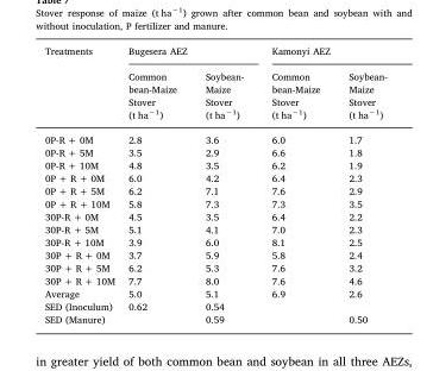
<table><thead><tr><td rowspan="3">Treatments</td><td colspan="2">Bugesera AEZ</td><td colspan="2">Kamonyi AEZ</td></tr><tr><td rowspan="2">Common bean-Maize Stover (t ha<sup>−1</sup>)</td><td rowspan="2">Soybean- Maize Stover (t ha<sup>−1</sup>)</td><td rowspan="2">Common bean-Maize Stover (t ha<sup>−1</sup>)</td><td rowspan="2">Soybean- Maize Stover (t ha<sup>−1</sup>)</td></tr><tr></tr></thead><tbody><tr><td>0P-R + 0M</td><td>2.8</td><td>3.6</td><td>6.0</td><td>1.7</td></tr><tr><td>0P-R + 5M</td><td>3.5</td><td>2.9</td><td>6.6</td><td>1.8</td></tr><tr><td>0P-R + 10M</td><td>4.8</td><td>3.5</td><td>6.2</td><td>1.9</td></tr><tr><td>0P + R + 0M</td><td>6.0</td><td>4.2</td><td>6.4</td><td>2.3</td></tr><tr><td>0P + R + 5M</td><td>6.2</td><td>7.1</td><td>7.6</td><td>2.9</td></tr><tr><td>0P + R + 10M</td><td>5.8</td><td>7.3</td><td>7.3</td><td>3.5</td></tr><tr><td>30P-R + 0M</td><td>4.5</td><td>3.5</td><td>6.4</td><td>2.2</td></tr><tr><td>30P-R + 5M</td><td>5.1</td><td>4.1</td><td>7.0</td><td>2.3</td></tr><tr><td>30P-R + 10M</td><td>3.9</td><td>6.0</td><td>8.1</td><td>2.5</td></tr><tr><td>30P + R + 0M</td><td>3.7</td><td>5.9</td><td>5.8</td><td>2.4</td></tr><tr><td>30P + R + 5M</td><td>6.2</td><td>5.3</td><td>7.6</td><td>3.2</td></tr><tr><td>30P + R + 10M</td><td>7.7</td><td>8.0</td><td>7.6</td><td>4.6</td></tr><tr><td>Average</td><td>5.0</td><td>5.1</td><td>6.9</td><td>2.6</td></tr><tr><td>SED (Inoculum)</td><td>0.62</td><td>0.54</td><td></td><td></td></tr><tr><td>SED (Manure)</td><td></td><td>0.59</td><td></td><td>0.50</td></tr></tbody></table>